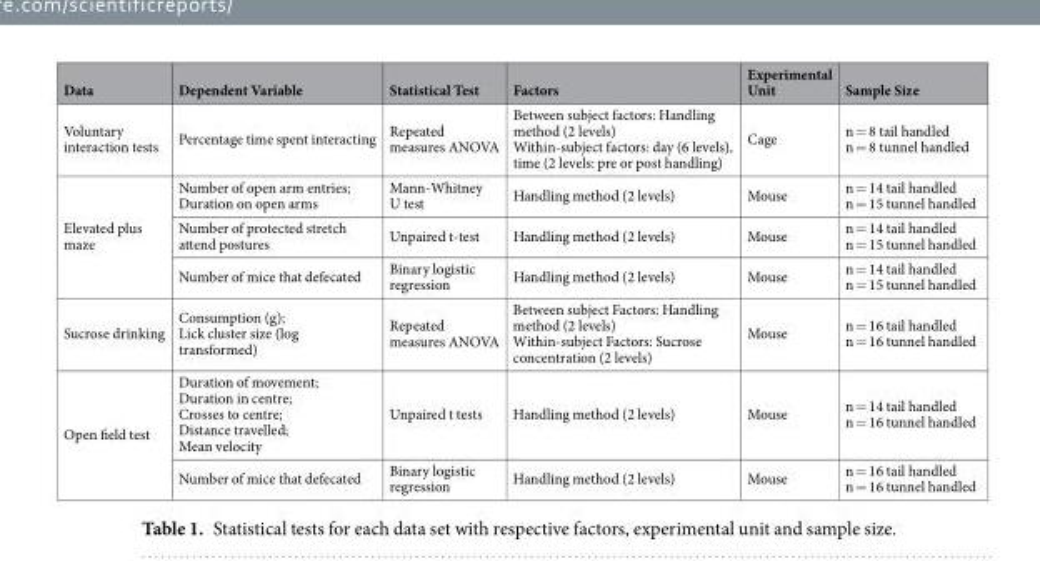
<table><thead><tr><td>Data</td><td>Dependent Variable</td><td>Statistical Test</td><td>Factors</td><td>Experimental Unit</td><td>Sample Size</td></tr></thead><tbody><tr><td>Voluntary interaction tests</td><td>Percentage time spent interacting</td><td>Repeated measures ANOVA</td><td>Between subject factors: Handling method (2 levels) Within-subject factors: day (6 levels), time (2 levels: pre or post handling)</td><td>Cage</td><td>n = 8 tail handled n = 8 tunnel handled</td></tr><tr><td rowspan="3">Elevated plus maze</td><td>Number of open arm entries; Duration on open arms</td><td>Mann-Whitney U test</td><td>Handling method (2 levels)</td><td>Mouse</td><td>n = 14 tail handled n = 15 tunnel handled</td></tr><tr><td>Number of protected stretch attend postures</td><td>Unpaired t-test</td><td>Handling method (2 levels)</td><td>Mouse</td><td>n = 14 tail handled n = 15 tunnel handled</td></tr><tr><td>Number of mice that defecated</td><td>Binary logistic regression</td><td>Handling method (2 levels)</td><td>Mouse</td><td>n = 14 tail handled n = 15 tunnel handled</td></tr><tr><td>Sucrose drinking</td><td>Consumption (g); Lick cluster size (log transformed)</td><td>Repeated measures ANOVA</td><td>Between subject Factors: Handling method (2 levels) Within-subject Factors: Sucrose concentration (2 levels)</td><td>Mouse</td><td>n = 16 tail handled n = 16 tunnel handled</td></tr><tr><td rowspan="2">Open field test</td><td>Duration of movement; Duration in centre; Crosses to centre; Distance travelled; Mean velocity</td><td>Unpaired t tests</td><td>Handling method (2 levels)</td><td>Mouse</td><td>n = 14 tail handled n = 16 tunnel handled</td></tr><tr><td>Number of mice that defecated</td><td>Binary logistic regression</td><td>Handling method (2 levels)</td><td>Mouse</td><td>n = 16 tail handled n = 16 tunnel handled</td></tr></tbody></table>